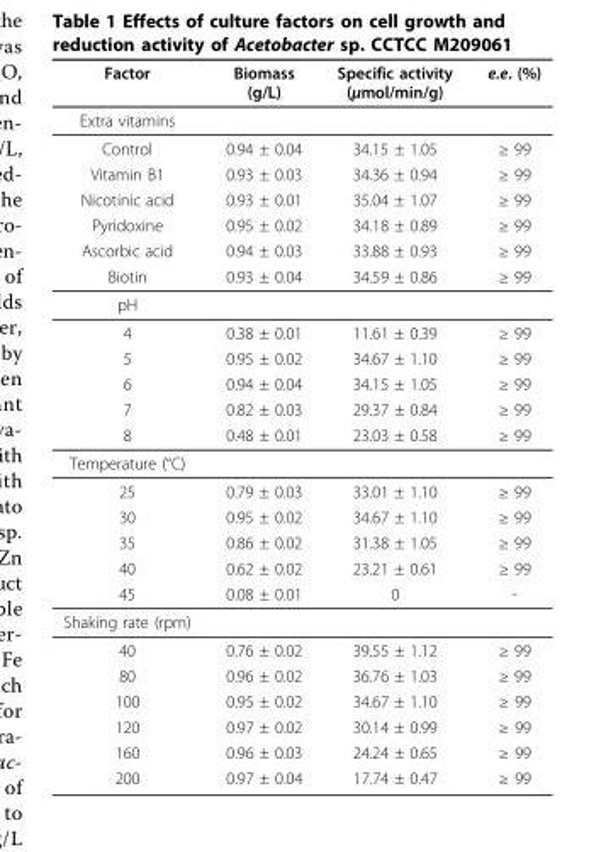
<table><tbody><tr><td>Factor</td><td>Biomass (g/L)</td><td>Specific activity (μmol/min/g)</td><td>e.e. (%)</td></tr><tr><td colspan="4">Extra vitamins</td></tr><tr><td>Control</td><td>0.94 ± 0.04</td><td>34.15 ± 1.05</td><td>≥ 99</td></tr><tr><td>Vitamin B1</td><td>0.93 ± 0.03</td><td>34.36 ± 0.94</td><td>≥ 99</td></tr><tr><td>Nicotinic acid</td><td>0.93 ± 0.01</td><td>35.04 ± 1.07</td><td>≥ 99</td></tr><tr><td>Pyridoxine</td><td>0.95 ± 0.02</td><td>34.18 ± 0.89</td><td>≥ 99</td></tr><tr><td>Ascorbic acid</td><td>0.94 ± 0.03</td><td>33.88 ± 0.93</td><td>≥ 99</td></tr><tr><td>Biotin</td><td>0.93 ± 0.04</td><td>34.59 ± 0.86</td><td>≥ 99</td></tr><tr><td colspan="4">pH</td></tr><tr><td>4</td><td>0.38 ± 0.01</td><td>11.61 ± 0.39</td><td>≥ 99</td></tr><tr><td>5</td><td>0.95 ± 0.02</td><td>34.67 ± 1.10</td><td>≥ 99</td></tr><tr><td>6</td><td>0.94 ± 0.04</td><td>34.15 ± 1.05</td><td>≥ 99</td></tr><tr><td>7</td><td>0.82 ± 0.03</td><td>29.37 ± 0.84</td><td>≥ 99</td></tr><tr><td>8</td><td>0.48 ± 0.01</td><td>23.03 ± 0.58</td><td>≥ 99</td></tr><tr><td colspan="4">Temperature (°C)</td></tr><tr><td>25</td><td>0.79 ± 0.03</td><td>33.01 ± 1.10</td><td>≥ 99</td></tr><tr><td>30</td><td>0.95 ± 0.02</td><td>34.67 ± 1.10</td><td>≥ 99</td></tr><tr><td>35</td><td>0.86 ± 0.02</td><td>31.38 ± 1.05</td><td>≥ 99</td></tr><tr><td>40</td><td>0.62 ± 0.02</td><td>23.21 ± 0.61</td><td>≥ 99</td></tr><tr><td>45</td><td>0.08 ± 0.01</td><td>0</td><td>-</td></tr><tr><td colspan="4">Shaking rate (rpm)</td></tr><tr><td>40</td><td>0.76 ± 0.02</td><td>39.55 ± 1.12</td><td>≥ 99</td></tr><tr><td>80</td><td>0.96 ± 0.02</td><td>36.76 ± 1.03</td><td>≥ 99</td></tr><tr><td>100</td><td>0.95 ± 0.02</td><td>34.67 ± 1.10</td><td>≥ 99</td></tr><tr><td>120</td><td>0.97 ± 0.02</td><td>30.14 ± 0.99</td><td>≥ 99</td></tr><tr><td>160</td><td>0.96 ± 0.03</td><td>24.24 ± 0.65</td><td>≥ 99</td></tr><tr><td>200</td><td>0.97 ± 0.04</td><td>17.74 ± 0.47</td><td>≥ 99</td></tr></tbody></table>